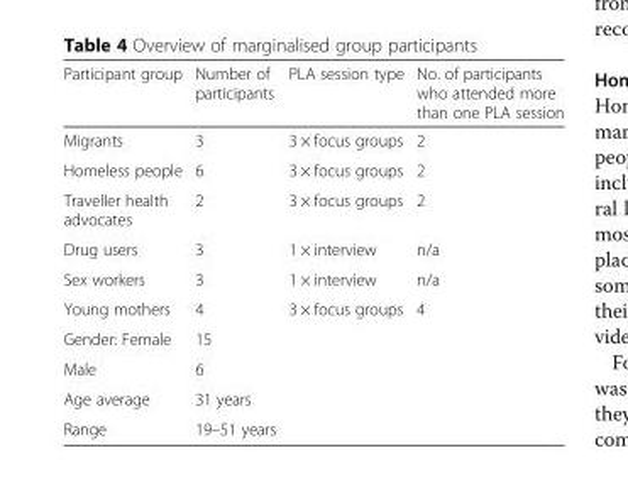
<table><thead><tr><td>Participant group</td><td>Number of participants</td><td>PLA session type</td><td>No. of participants who attended more than one PLA session</td></tr></thead><tbody><tr><td>Migrants</td><td>3</td><td>3 × focus groups</td><td>2</td></tr><tr><td>Homeless people</td><td>6</td><td>3 × focus groups</td><td>2</td></tr><tr><td>Traveller health advocates</td><td>2</td><td>3 × focus groups</td><td>2</td></tr><tr><td>Drug users</td><td>3</td><td>1 × interview</td><td>n/a</td></tr><tr><td>Sex workers</td><td>3</td><td>1 × interview</td><td>n/a</td></tr><tr><td>Young mothers</td><td>4</td><td>3 × focus groups</td><td>4</td></tr><tr><td>Gender: Female</td><td>15</td><td rowspan="2"></td><td rowspan="2"></td></tr><tr><td>Male</td><td>6</td></tr><tr><td>Age average</td><td>31 years</td><td rowspan="2"></td><td rowspan="2"></td></tr><tr><td>Range</td><td>19–51 years</td></tr></tbody></table>